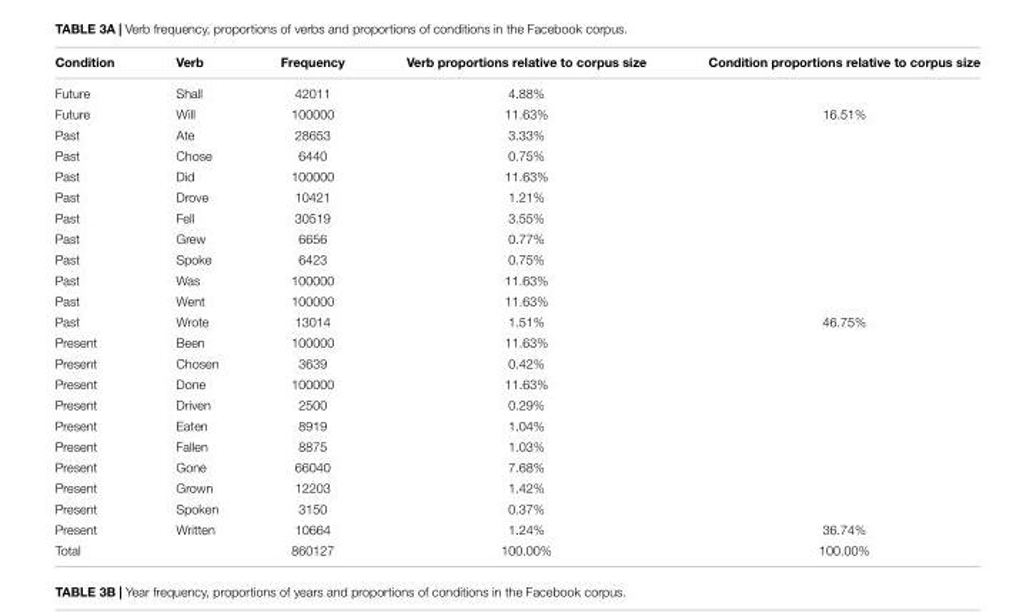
<table><thead><tr><td>Condition</td><td>Verb</td><td>Frequency</td><td>Verb proportions relative to corpus size</td><td>Condition proportions relative to corpus size</td></tr></thead><tbody><tr><td>Future</td><td>Shall</td><td>42011</td><td>4.88%</td><td></td></tr><tr><td>Future</td><td>Will</td><td>100000</td><td>11.63%</td><td>16.51%</td></tr><tr><td>Past</td><td>Ate</td><td>28653</td><td>3.33%</td><td></td></tr><tr><td>Past</td><td>Chose</td><td>6440</td><td>0.75%</td><td></td></tr><tr><td>Past</td><td>Did</td><td>100000</td><td>11.63%</td><td></td></tr><tr><td>Past</td><td>Drove</td><td>10421</td><td>1.21%</td><td></td></tr><tr><td>Past</td><td>Fell</td><td>30519</td><td>3.55%</td><td></td></tr><tr><td>Past</td><td>Grew</td><td>6656</td><td>0.77%</td><td></td></tr><tr><td>Past</td><td>Spoke</td><td>6423</td><td>0.75%</td><td></td></tr><tr><td>Past</td><td>Was</td><td>100000</td><td>11.63%</td><td></td></tr><tr><td>Past</td><td>Went</td><td>100000</td><td>11.63%</td><td></td></tr><tr><td>Past</td><td>Wrote</td><td>13014</td><td>1.51%</td><td>46.75%</td></tr><tr><td>Present</td><td>Been</td><td>100000</td><td>11.63%</td><td></td></tr><tr><td>Present</td><td>Chosen</td><td>3639</td><td>0.42%</td><td></td></tr><tr><td>Present</td><td>Done</td><td>100000</td><td>11.63%</td><td></td></tr><tr><td>Present</td><td>Driven</td><td>2500</td><td>0.29%</td><td></td></tr><tr><td>Present</td><td>Eaten</td><td>8919</td><td>1.04%</td><td></td></tr><tr><td>Present</td><td>Fallen</td><td>8875</td><td>1.03%</td><td></td></tr><tr><td>Present</td><td>Gone</td><td>66040</td><td>7.68%</td><td></td></tr><tr><td>Present</td><td>Grown</td><td>12203</td><td>1.42%</td><td></td></tr><tr><td>Present</td><td>Spoken</td><td>3150</td><td>0.37%</td><td></td></tr><tr><td>Present</td><td>Written</td><td>10664</td><td>1.24%</td><td>36.74%</td></tr><tr><td>Total</td><td></td><td>860127</td><td>100.00%</td><td>100.00%</td></tr></tbody></table>